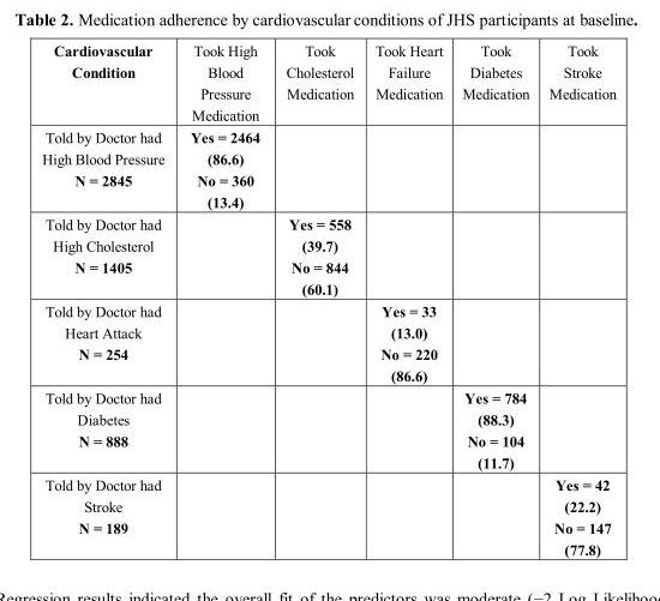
<table><thead><tr><td>Cardiovascular Condition</td><td>Took High Blood Pressure Medication</td><td>Took Cholesterol Medication</td><td>Took Heart Failure Medication</td><td>Took Diabetes Medication</td><td>Took Stroke Medication</td></tr></thead><tbody><tr><td>Told by Doctor had High Blood Pressure N = 2845</td><td>Yes = 2464 (86.6) No = 360 (13.4)</td><td></td><td></td><td></td><td></td></tr><tr><td>Told by Doctor had High Cholesterol N = 1405</td><td></td><td>Yes = 558 (39.7) No = 844 (60.1)</td><td></td><td></td><td></td></tr><tr><td>Told by Doctor had Heart Attack N = 254</td><td></td><td></td><td>Yes = 33 (13.0) No = 220 (86.6)</td><td></td><td></td></tr><tr><td>Told by Doctor had Diabetes N = 888</td><td></td><td></td><td></td><td>Yes = 784 (88.3) No = 104 (11.7)</td><td></td></tr><tr><td>Told by Doctor had Stroke N = 189</td><td></td><td></td><td></td><td></td><td>Yes = 42 (22.2) No = 147 (77.8)</td></tr></tbody></table>